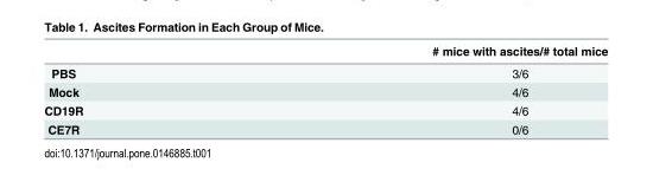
<table><thead><tr><td></td><td># mice with ascites/# total mice</td></tr></thead><tbody><tr><td>PBS</td><td>3/6</td></tr><tr><td>Mock</td><td>4/6</td></tr><tr><td>CD19R</td><td>4/6</td></tr><tr><td>CE7R</td><td>0/6</td></tr></tbody></table>